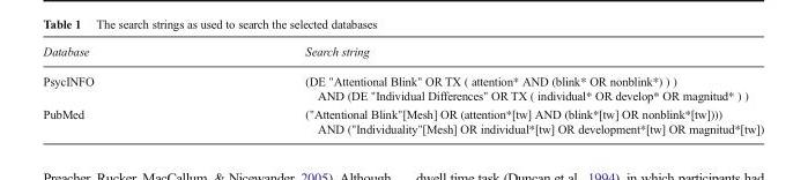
<table><thead><tr><td>Database</td><td>Search string</td></tr></thead><tbody><tr><td>PsycINFO</td><td>(DE &quot;Attentional Blink&quot; OR TX ( attention* AND (blink* OR nonblink*) ) ) AND (DE &quot;Individual Differences&quot; OR TX ( individual* OR develop* OR magnitud* ) )</td></tr><tr><td>PubMed</td><td>(&quot;Attentional Blink&quot;[Mesh] OR (attention*[tw] AND (blink*[tw] OR nonblink*[tw]))) AND (&quot;Individuality&quot;[Mesh] OR individual*[tw] OR development*[tw] OR magnitud*[tw])</td></tr></tbody></table>